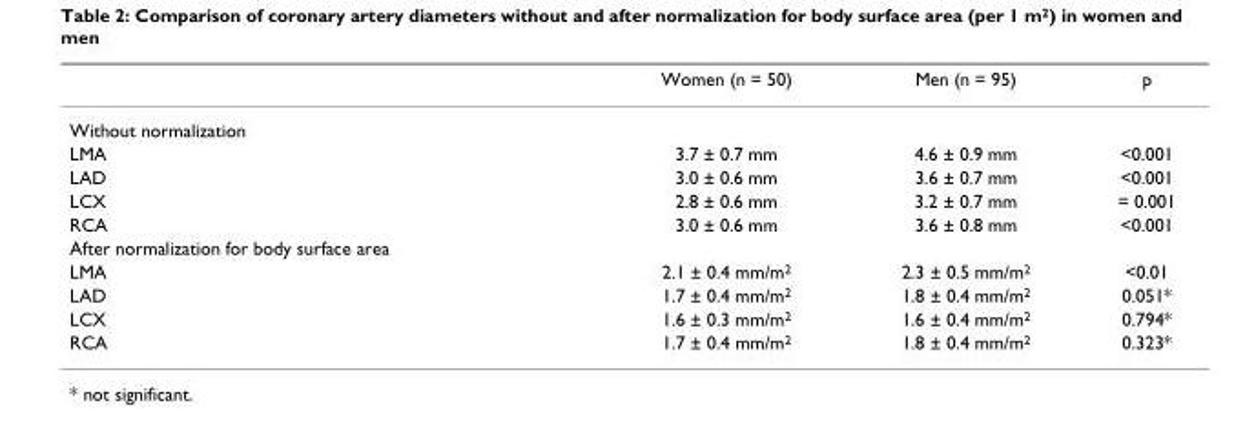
<table><thead><tr><td></td><td>Women (n = 50)</td><td>Men (n = 95)</td><td>p</td></tr></thead><tbody><tr><td colspan="4">Without normalization</td></tr><tr><td>LMA</td><td>3.7 ± 0.7 mm</td><td>4.6 ± 0.9 mm</td><td>&lt;0.001</td></tr><tr><td>LAD</td><td>3.0 ± 0.6 mm</td><td>3.6 ± 0.7 mm</td><td>&lt;0.001</td></tr><tr><td>LCX</td><td>2.8 ± 0.6 mm</td><td>3.2 ± 0.7 mm</td><td>= 0.001</td></tr><tr><td>RCA</td><td>3.0 ± 0.6 mm</td><td>3.6 ± 0.8 mm</td><td>&lt;0.001</td></tr><tr><td colspan="4">After normalization for body surface area</td></tr><tr><td>LMA</td><td>2.1 ± 0.4 mm/m<sup>2</sup></td><td>2.3 ± 0.5 mm/m<sup>2</sup></td><td>&lt;0.01</td></tr><tr><td>LAD</td><td>1.7 ± 0.4 mm/m<sup>2</sup></td><td>1.8 ± 0.4 mm/m<sup>2</sup></td><td>0.051*</td></tr><tr><td>LCX</td><td>1.6 ± 0.3 mm/m<sup>2</sup></td><td>1.6 ± 0.4 mm/m<sup>2</sup></td><td>0.794*</td></tr><tr><td>RCA</td><td>1.7 ± 0.4 mm/m<sup>2</sup></td><td>1.8 ± 0.4 mm/m<sup>2</sup></td><td>0.323*</td></tr></tbody></table>